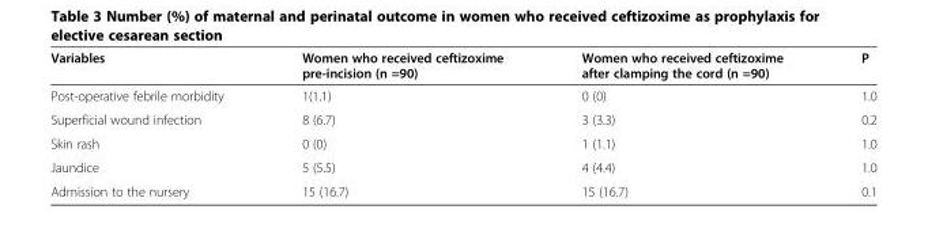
<table><thead><tr><td>Variables</td><td>Women who received ceftizoxime pre-incision (n =90)</td><td>Women who received ceftizoxime after clamping the cord (n =90)</td><td>P</td></tr></thead><tbody><tr><td>Post-operative febrile morbidity</td><td>1(1.1)</td><td>0 (0)</td><td>1.0</td></tr><tr><td>Superficial wound infection</td><td>8 (6.7)</td><td>3 (3.3)</td><td>0.2</td></tr><tr><td>Skin rash</td><td>0 (0)</td><td>1 (1.1)</td><td>1.0</td></tr><tr><td>Jaundice</td><td>5 (5.5)</td><td>4 (4.4)</td><td>1.0</td></tr><tr><td>Admission to the nursery</td><td>15 (16.7)</td><td>15 (16.7)</td><td>0.1</td></tr></tbody></table>